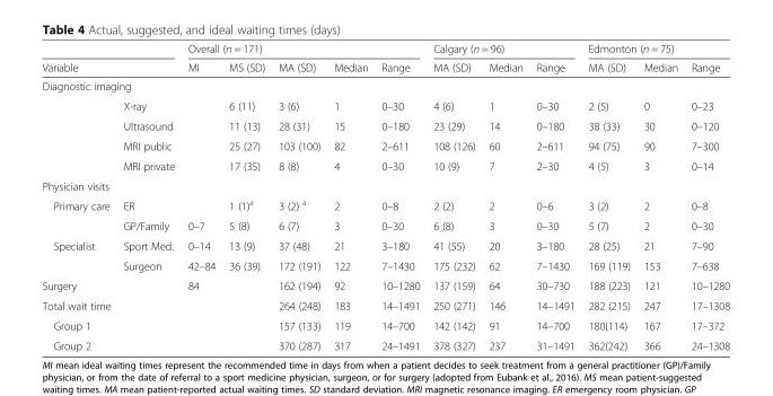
<table><thead><tr><td></td><td></td><td colspan="5">Overall (n = 171)</td><td colspan="3">Calgary (n = 96)</td><td colspan="3">Edmonton (n = 75)</td></tr><tr><td colspan="2">Variable</td><td>MI</td><td>MS (SD)</td><td>MA (SD)</td><td>Median</td><td>Range</td><td>MA (SD)</td><td>Median</td><td>Range</td><td>MA (SD)</td><td>Median</td><td>Range</td></tr></thead><tbody><tr><td colspan="13">Diagnostic imaging</td></tr><tr><td rowspan="4"></td><td>X-ray</td><td></td><td>6 (11)</td><td>3 (6)</td><td>1</td><td>0–30</td><td>4 (6)</td><td>1</td><td>0–30</td><td>2 (5)</td><td>0</td><td>0–23</td></tr><tr><td>Ultrasound</td><td></td><td>11 (13)</td><td>28 (31)</td><td>15</td><td>0–180</td><td>23 (29)</td><td>14</td><td>0–180</td><td>38 (33)</td><td>30</td><td>0–120</td></tr><tr><td>MRI public</td><td></td><td>25 (27)</td><td>103 (100)</td><td>82</td><td>2–611</td><td>108 (126)</td><td>60</td><td>2–611</td><td>94 (75)</td><td>90</td><td>7–300</td></tr><tr><td>MRI private</td><td></td><td>17 (35)</td><td>8 (8)</td><td>4</td><td>0–30</td><td>10 (9)</td><td>7</td><td>2–30</td><td>4 (5)</td><td>3</td><td>0–14</td></tr><tr><td colspan="13">Physician visits</td></tr><tr><td rowspan="2">Primary care</td><td>ER</td><td></td><td>1 (1)<sup>a</sup></td><td>3 (2) <sup>a</sup></td><td>2</td><td>0–8</td><td>2 (2)</td><td>2</td><td>0–6</td><td>3 (2)</td><td>2</td><td>0–8</td></tr><tr><td>GP/Family</td><td>0–7</td><td>5 (8)</td><td>6 (7)</td><td>3</td><td>0–30</td><td>6 (8)</td><td>3</td><td>0–30</td><td>5 (7)</td><td>2</td><td>0–30</td></tr><tr><td rowspan="2">Specialist</td><td>Sport Med.</td><td>0–14</td><td>13 (9)</td><td>37 (48)</td><td>21</td><td>3–180</td><td>41 (55)</td><td>20</td><td>3–180</td><td>28 (25)</td><td>21</td><td>7–90</td></tr><tr><td>Surgeon</td><td>42–84</td><td>36 (39)</td><td>172 (191)</td><td>122</td><td>7–1430</td><td>175 (232)</td><td>62</td><td>7–1430</td><td>169 (119)</td><td>153</td><td>7–638</td></tr><tr><td colspan="2">Surgery</td><td>84</td><td></td><td>162 (194)</td><td>92</td><td>10–1280</td><td>137 (159)</td><td>64</td><td>30–730</td><td>188 (223)</td><td>121</td><td>10–1280</td></tr><tr><td colspan="2">Total wait time</td><td></td><td></td><td>264 (248)</td><td>183</td><td>14–1491</td><td>250 (271)</td><td>146</td><td>14–1491</td><td>282 (215)</td><td>247</td><td>17–1308</td></tr><tr><td colspan="2">Group 1</td><td></td><td></td><td>157 (133)</td><td>119</td><td>14–700</td><td>142 (142)</td><td>91</td><td>14–700</td><td>180(114)</td><td>167</td><td>17–372</td></tr><tr><td colspan="2">Group 2</td><td></td><td></td><td>370 (287)</td><td>317</td><td>24–1491</td><td>378 (327)</td><td>237</td><td>31–1491</td><td>362(242)</td><td>366</td><td>24–1308</td></tr></tbody></table>